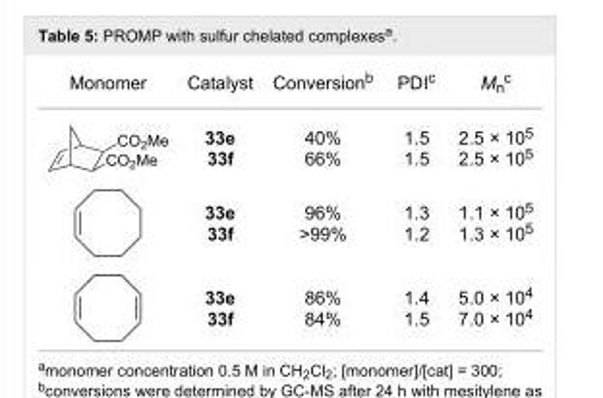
<table><tbody><tr><td rowspan="4">Monomer</td><td>Catalyst</td><td>Conversion<sup>b</sup></td><td>PDI<sup>c</sup></td><td>M<sub>n</sub><sup>c</sup></td></tr><tr><td>33e 33f</td><td>40% 66%</td><td>1.5 1.5</td><td>2.5 × 10<sup>5</sup> 2.5 × 10<sup>5</sup></td></tr><tr><td>33e 33f</td><td>96% &gt;99%</td><td>1.3 1.2</td><td>1.1 × 10<sup>5</sup> 1.3 × 10<sup>5</sup></td></tr><tr><td>33e 33f</td><td>86% 84%</td><td>1.4 1.5</td><td>5.0 × 10<sup>4</sup> 7.0 × 10<sup>4</sup></td></tr></tbody></table>